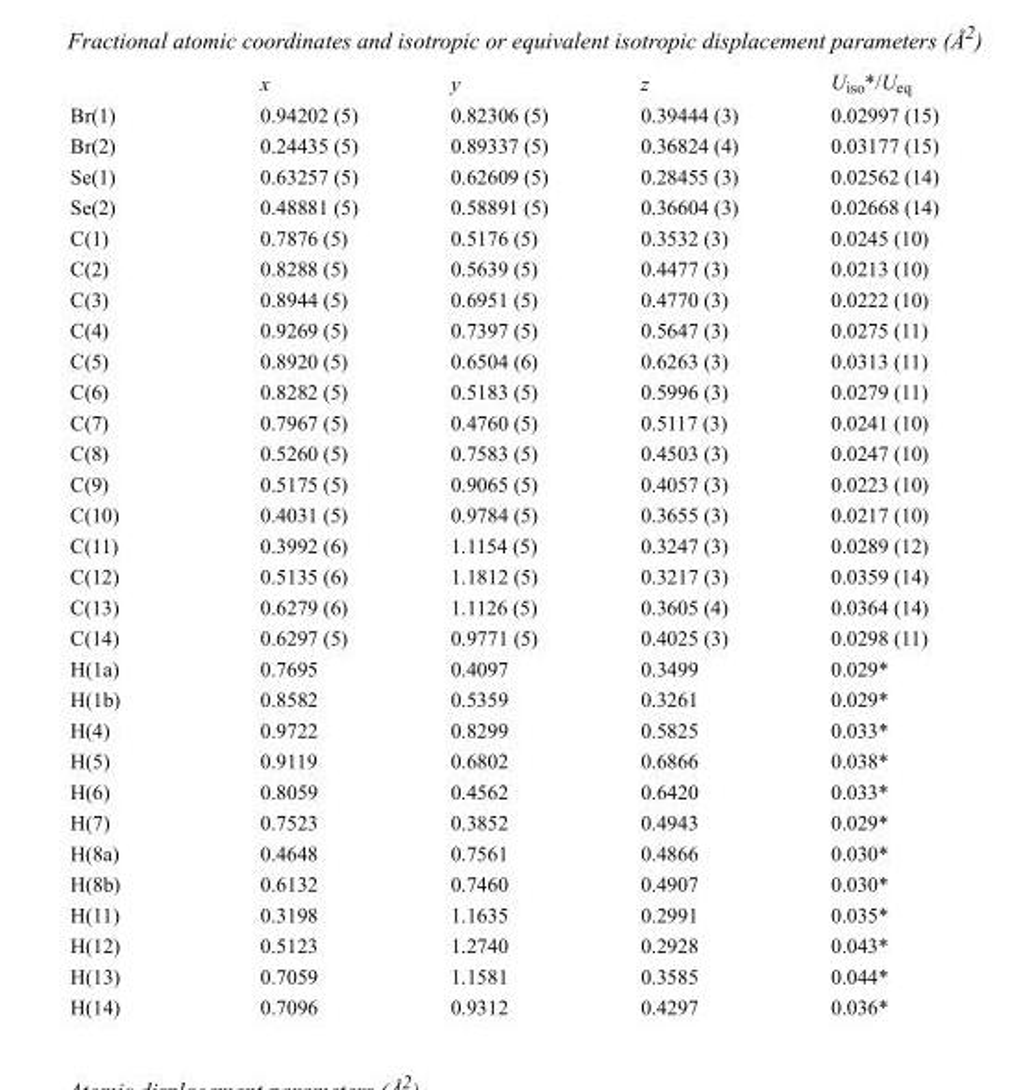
<table><thead><tr><td></td><td>x</td><td>y</td><td>z</td><td>U<sub>iso</sub>*/U<sub>eq</sub></td></tr></thead><tbody><tr><td>Br(1)</td><td>0.94202 (5)</td><td>0.82306 (5)</td><td>0.39444 (3)</td><td>0.02997 (15)</td></tr><tr><td>Br(2)</td><td>0.24435 (5)</td><td>0.89337 (5)</td><td>0.36824 (4)</td><td>0.03177 (15)</td></tr><tr><td>Se(1)</td><td>0.63257 (5)</td><td>0.62609 (5)</td><td>0.28455 (3)</td><td>0.02562 (14)</td></tr><tr><td>Se(2)</td><td>0.48881 (5)</td><td>0.58891 (5)</td><td>0.36604 (3)</td><td>0.02668 (14)</td></tr><tr><td>C(1)</td><td>0.7876 (5)</td><td>0.5176 (5)</td><td>0.3532 (3)</td><td>0.0245 (10)</td></tr><tr><td>C(2)</td><td>0.8288 (5)</td><td>0.5639 (5)</td><td>0.4477 (3)</td><td>0.0213 (10)</td></tr><tr><td>C(3)</td><td>0.8944 (5)</td><td>0.6951 (5)</td><td>0.4770 (3)</td><td>0.0222 (10)</td></tr><tr><td>C(4)</td><td>0.9269 (5)</td><td>0.7397 (5)</td><td>0.5647 (3)</td><td>0.0275 (11)</td></tr><tr><td>C(5)</td><td>0.8920 (5)</td><td>0.6504 (6)</td><td>0.6263 (3)</td><td>0.0313 (11)</td></tr><tr><td>C(6)</td><td>0.8282 (5)</td><td>0.5183 (5)</td><td>0.5996 (3)</td><td>0.0279 (11)</td></tr><tr><td>C(7)</td><td>0.7967 (5)</td><td>0.4760 (5)</td><td>0.5117 (3)</td><td>0.0241 (10)</td></tr><tr><td>C(8)</td><td>0.5260 (5)</td><td>0.7583 (5)</td><td>0.4503 (3)</td><td>0.0247 (10)</td></tr><tr><td>C(9)</td><td>0.5175 (5)</td><td>0.9065 (5)</td><td>0.4057 (3)</td><td>0.0223 (10)</td></tr><tr><td>C(10)</td><td>0.4031 (5)</td><td>0.9784 (5)</td><td>0.3655 (3)</td><td>0.0217 (10)</td></tr><tr><td>C(11)</td><td>0.3992 (6)</td><td>1.1154 (5)</td><td>0.3247 (3)</td><td>0.0289 (12)</td></tr><tr><td>C(12)</td><td>0.5135 (6)</td><td>1.1812 (5)</td><td>0.3217 (3)</td><td>0.0359 (14)</td></tr><tr><td>C(13)</td><td>0.6279 (6)</td><td>1.1126 (5)</td><td>0.3605 (4)</td><td>0.0364 (14)</td></tr><tr><td>C(14)</td><td>0.6297 (5)</td><td>0.9771 (5)</td><td>0.4025 (3)</td><td>0.0298 (11)</td></tr><tr><td>H(1a)</td><td>0.7695</td><td>0.4097</td><td>0.3499</td><td>0.029*</td></tr><tr><td>H(1b)</td><td>0.8582</td><td>0.5359</td><td>0.3261</td><td>0.029*</td></tr><tr><td>H(4)</td><td>0.9722</td><td>0.8299</td><td>0.5825</td><td>0.033*</td></tr><tr><td>H(5)</td><td>0.9119</td><td>0.6802</td><td>0.6866</td><td>0.038*</td></tr><tr><td>H(6)</td><td>0.8059</td><td>0.4562</td><td>0.6420</td><td>0.033*</td></tr><tr><td>H(7)</td><td>0.7523</td><td>0.3852</td><td>0.4943</td><td>0.029*</td></tr><tr><td>H(8a)</td><td>0.4648</td><td>0.7561</td><td>0.4866</td><td>0.030*</td></tr><tr><td>H(8b)</td><td>0.6132</td><td>0.7460</td><td>0.4907</td><td>0.030*</td></tr><tr><td>H(11)</td><td>0.3198</td><td>1.1635</td><td>0.2991</td><td>0.035*</td></tr><tr><td>H(12)</td><td>0.5123</td><td>1.2740</td><td>0.2928</td><td>0.043*</td></tr><tr><td>H(13)</td><td>0.7059</td><td>1.1581</td><td>0.3585</td><td>0.044*</td></tr><tr><td>H(14)</td><td>0.7096</td><td>0.9312</td><td>0.4297</td><td>0.036*</td></tr></tbody></table>